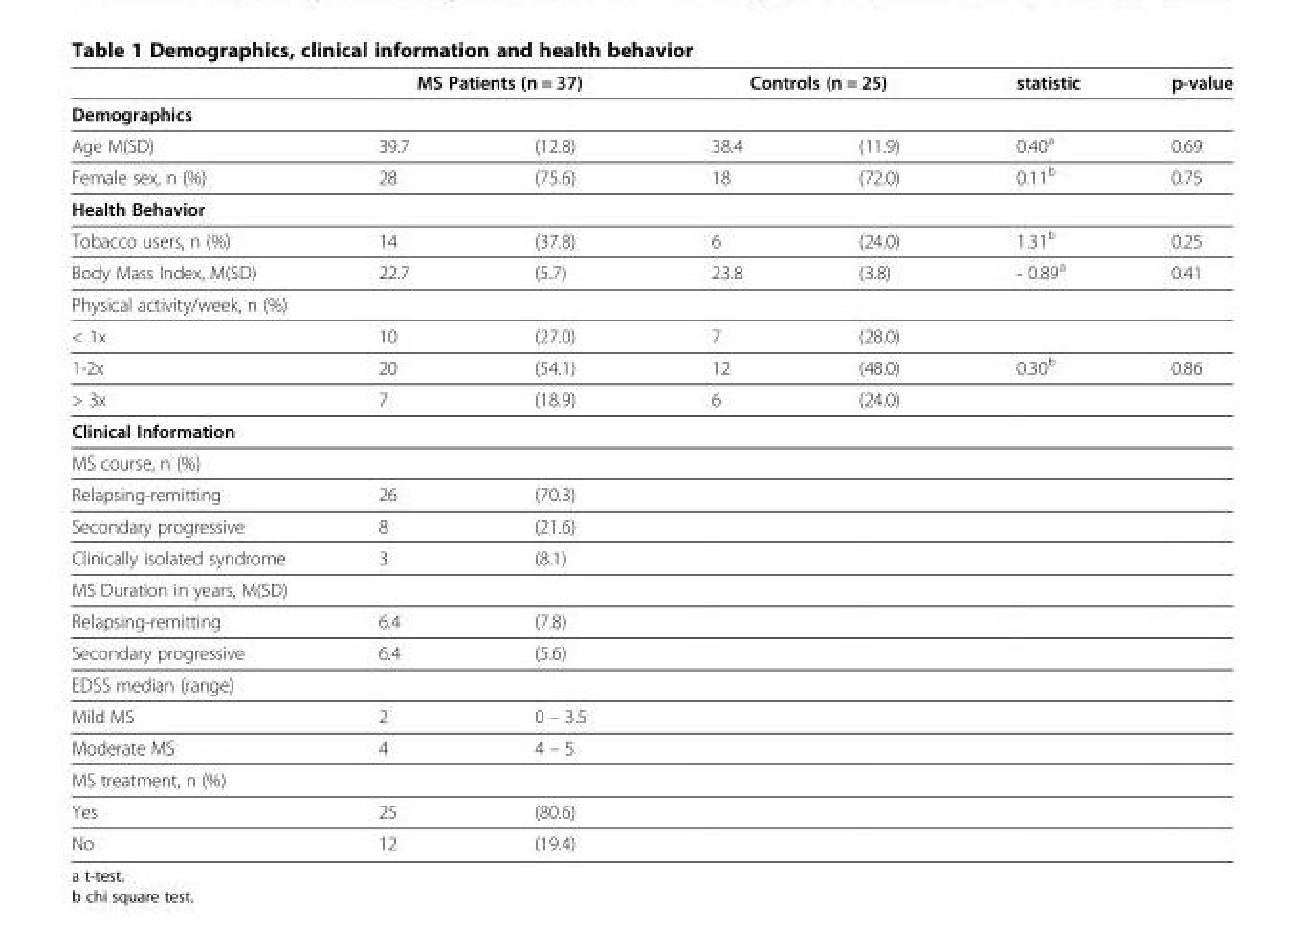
<table><thead><tr><td rowspan="2">Demographics</td><td colspan="2">MS Patients (n = 37)</td><td colspan="2">Controls (n = 25)</td><td rowspan="2">statistic</td><td rowspan="2">p-value</td></tr><tr><td></td><td></td><td></td><td></td></tr></thead><tbody><tr><td>Age M(SD)</td><td>39.7</td><td>(12.8)</td><td>38.4</td><td>(11.9)</td><td>0.40<sup>a</sup></td><td>0.69</td></tr><tr><td>Female sex, n (%)</td><td>28</td><td>(75.6)</td><td>18</td><td>(72.0)</td><td>0.11<sup>b</sup></td><td>0.75</td></tr><tr><td colspan="7">Health Behavior</td></tr><tr><td>Tobacco users, n (%)</td><td>14</td><td>(37.8)</td><td>6</td><td>(24.0)</td><td>1.31<sup>b</sup></td><td>0.25</td></tr><tr><td>Body Mass Index, M(SD)</td><td>22.7</td><td>(5.7)</td><td>23.8</td><td>(3.8)</td><td>- 0.89<sup>a</sup></td><td>0.41</td></tr><tr><td colspan="7">Physical activity/week, n (%)</td></tr><tr><td>&lt; 1x</td><td>10</td><td>(27.0)</td><td>7</td><td>(28.0)</td><td></td><td></td></tr><tr><td>1-2x</td><td>20</td><td>(54.1)</td><td>12</td><td>(48.0)</td><td>0.30<sup>b</sup></td><td>0.86</td></tr><tr><td>&gt; 3x</td><td>7</td><td>(18.9)</td><td>6</td><td>(24.0)</td><td></td><td></td></tr><tr><td colspan="7">Clinical Information</td></tr><tr><td colspan="7">MS course, n (%)</td></tr><tr><td>Relapsing-remitting</td><td>26</td><td>(70.3)</td><td></td><td></td><td></td><td></td></tr><tr><td>Secondary progressive</td><td>8</td><td>(21.6)</td><td></td><td></td><td></td><td></td></tr><tr><td>Clinically isolated syndrome</td><td>3</td><td>(8.1)</td><td></td><td></td><td></td><td></td></tr><tr><td colspan="7">MS Duration in years, M(SD)</td></tr><tr><td>Relapsing-remitting</td><td>6.4</td><td>(7.8)</td><td></td><td></td><td></td><td></td></tr><tr><td>Secondary progressive</td><td>6.4</td><td>(5.6)</td><td></td><td></td><td></td><td></td></tr><tr><td colspan="7">EDSS median (range)</td></tr><tr><td>Mild MS</td><td>2</td><td>0 – 3.5</td><td></td><td></td><td></td><td></td></tr><tr><td>Moderate MS</td><td>4</td><td>4 – 5</td><td></td><td></td><td></td><td></td></tr><tr><td colspan="7">MS treatment, n (%)</td></tr><tr><td>Yes</td><td>25</td><td>(80.6)</td><td></td><td></td><td></td><td></td></tr><tr><td>No</td><td>12</td><td>(19.4)</td><td></td><td></td><td></td><td></td></tr></tbody></table>